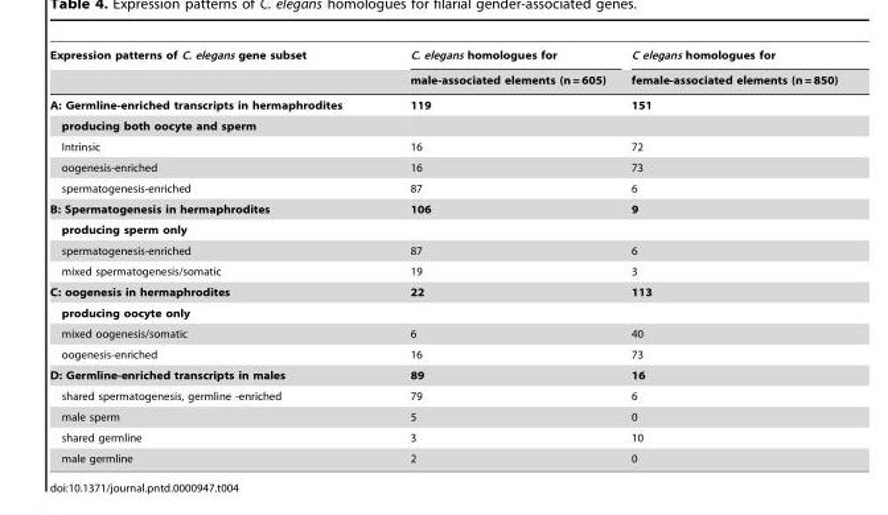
<table><thead><tr><td rowspan="2">Expression patterns of C. elegans gene subset</td><td rowspan="2">C. elegans homologues for male-associated elements (n = 605)</td><td rowspan="2">C elegans homologues for female-associated elements (n = 850)</td></tr><tr></tr></thead><tbody><tr><td>A: Germline-enriched transcripts in hermaphrodites</td><td>119</td><td>151</td></tr><tr><td colspan="3">producing both oocyte and sperm</td></tr><tr><td>Intrinsic</td><td>16</td><td>72</td></tr><tr><td>oogenesis-enriched</td><td>16</td><td>73</td></tr><tr><td>spermatogenesis-enriched</td><td>87</td><td>6</td></tr><tr><td>B: Spermatogenesis in hermaphrodites</td><td>106</td><td>9</td></tr><tr><td colspan="3">producing sperm only</td></tr><tr><td>spermatogenesis-enriched</td><td>87</td><td>6</td></tr><tr><td>mixed spermatogenesis/somatic</td><td>19</td><td>3</td></tr><tr><td>C: oogenesis in hermaphrodites</td><td>22</td><td>113</td></tr><tr><td colspan="3">producing oocyte only</td></tr><tr><td>mixed oogenesis/somatic</td><td>6</td><td>40</td></tr><tr><td>oogenesis-enriched</td><td>16</td><td>73</td></tr><tr><td>D: Germline-enriched transcripts in males</td><td>89</td><td>16</td></tr><tr><td>shared spermatogenesis, germline -enriched</td><td>79</td><td>6</td></tr><tr><td>male sperm</td><td>5</td><td>0</td></tr><tr><td>shared germline</td><td>3</td><td>10</td></tr><tr><td>male germline</td><td>2</td><td>0</td></tr></tbody></table>